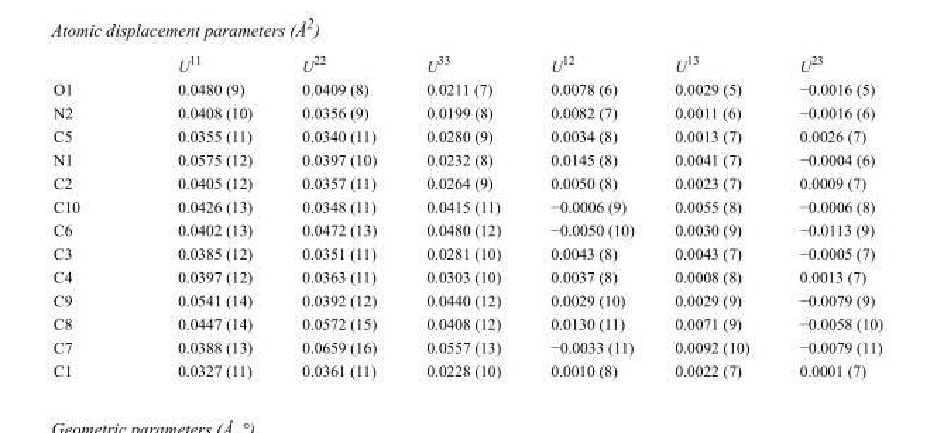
<table><thead><tr><td></td><td>U<sup>11</sup></td><td>U<sup>22</sup></td><td>U<sup>33</sup></td><td>U<sup>12</sup></td><td>U<sup>13</sup></td><td>U<sup>23</sup></td></tr></thead><tbody><tr><td>O1</td><td>0.0480 (9)</td><td>0.0409 (8)</td><td>0.0211 (7)</td><td>0.0078 (6)</td><td>0.0029 (5)</td><td>−0.0016 (5)</td></tr><tr><td>N2</td><td>0.0408 (10)</td><td>0.0356 (9)</td><td>0.0199 (8)</td><td>0.0082 (7)</td><td>0.0011 (6)</td><td>−0.0016 (6)</td></tr><tr><td>C5</td><td>0.0355 (11)</td><td>0.0340 (11)</td><td>0.0280 (9)</td><td>0.0034 (8)</td><td>0.0013 (7)</td><td>0.0026 (7)</td></tr><tr><td>N1</td><td>0.0575 (12)</td><td>0.0397 (10)</td><td>0.0232 (8)</td><td>0.0145 (8)</td><td>0.0041 (7)</td><td>−0.0004 (6)</td></tr><tr><td>C2</td><td>0.0405 (12)</td><td>0.0357 (11)</td><td>0.0264 (9)</td><td>0.0050 (8)</td><td>0.0023 (7)</td><td>0.0009 (7)</td></tr><tr><td>C10</td><td>0.0426 (13)</td><td>0.0348 (11)</td><td>0.0415 (11)</td><td>−0.0006 (9)</td><td>0.0055 (8)</td><td>−0.0006 (8)</td></tr><tr><td>C6</td><td>0.0402 (13)</td><td>0.0472 (13)</td><td>0.0480 (12)</td><td>−0.0050 (10)</td><td>0.0030 (9)</td><td>−0.0113 (9)</td></tr><tr><td>C3</td><td>0.0385 (12)</td><td>0.0351 (11)</td><td>0.0281 (10)</td><td>0.0043 (8)</td><td>0.0043 (7)</td><td>−0.0005 (7)</td></tr><tr><td>C4</td><td>0.0397 (12)</td><td>0.0363 (11)</td><td>0.0303 (10)</td><td>0.0037 (8)</td><td>0.0008 (8)</td><td>0.0013 (7)</td></tr><tr><td>C9</td><td>0.0541 (14)</td><td>0.0392 (12)</td><td>0.0440 (12)</td><td>0.0029 (10)</td><td>0.0029 (9)</td><td>−0.0079 (9)</td></tr><tr><td>C8</td><td>0.0447 (14)</td><td>0.0572 (15)</td><td>0.0408 (12)</td><td>0.0130 (11)</td><td>0.0071 (9)</td><td>−0.0058 (10)</td></tr><tr><td>C7</td><td>0.0388 (13)</td><td>0.0659 (16)</td><td>0.0557 (13)</td><td>−0.0033 (11)</td><td>0.0092 (10)</td><td>−0.0079 (11)</td></tr><tr><td>C1</td><td>0.0327 (11)</td><td>0.0361 (11)</td><td>0.0228 (10)</td><td>0.0010 (8)</td><td>0.0022 (7)</td><td>0.0001 (7)</td></tr></tbody></table>